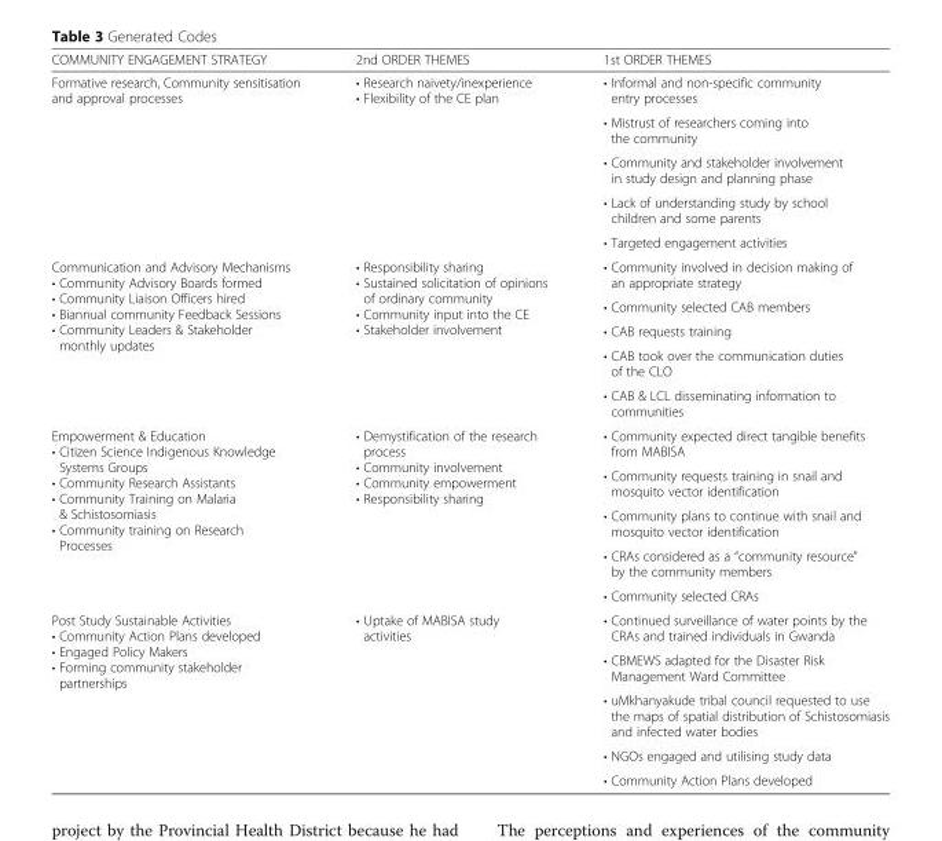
<table><thead><tr><td>COMMUNITY ENGAGEMENT STRATEGY</td><td>2nd ORDER THEMES</td><td>1st ORDER THEMES</td></tr></thead><tbody><tr><td rowspan="5">Formative research, Community sensitisation and approval processes</td><td rowspan="5">• Research naivety/inexperience • Flexibility of the CE plan</td><td>• Informal and non-specific community entry processes</td></tr><tr><td>• Mistrust of researchers coming into the community</td></tr><tr><td>• Community and stakeholder involvement in study design and planning phase</td></tr><tr><td>• Lack of understanding study by school children and some parents</td></tr><tr><td>• Targeted engagement activities</td></tr><tr><td rowspan="5">Communication and Advisory Mechanisms • Community Advisory Boards formed • Community Liaison Officers hired • Biannual community Feedback Sessions • Community Leaders &amp; Stakeholder monthly updates</td><td rowspan="5">• Responsibility sharing • Sustained solicitation of opinions of ordinary community • Community input into the CE • Stakeholder involvement</td><td>• Community involved in decision making of an appropriate strategy</td></tr><tr><td>• Community selected CAB members</td></tr><tr><td>• CAB requests training</td></tr><tr><td>• CAB took over the communication duties of the CLO</td></tr><tr><td>• CAB &amp; LCL disseminating information to communities</td></tr><tr><td rowspan="5">Empowerment &amp; Education • Citizen Science Indigenous Knowledge Systems Groups • Community Research Assistants • Community Training on Malaria &amp; Schistosomiasis • Community training on Research Processes</td><td rowspan="5">• Demystification of the research process • Community involvement • Community empowerment • Responsibility sharing</td><td>• Community expected direct tangible benefits from MABISA</td></tr><tr><td>• Community requests training in snail and mosquito vector identification</td></tr><tr><td>• Community plans to continue with snail and mosquito vector identification</td></tr><tr><td>• CRAs considered as a “community resource” by the community members</td></tr><tr><td>• Community selected CRAs</td></tr><tr><td rowspan="5">Post Study Sustainable Activities • Community Action Plans developed • Engaged Policy Makers • Forming community stakeholder partnerships</td><td rowspan="5">• Uptake of MABISA study activities</td><td>• Continued surveillance of water points by the CRAs and trained individuals in Gwanda</td></tr><tr><td>• CBMEWS adapted for the Disaster Risk Management Ward Committee</td></tr><tr><td>• uMkhanyakude tribal council requested to use the maps of spatial distribution of Schistosomiasis and infected water bodies</td></tr><tr><td>• NGOs engaged and utilising study data</td></tr><tr><td>• Community Action Plans developed</td></tr></tbody></table>